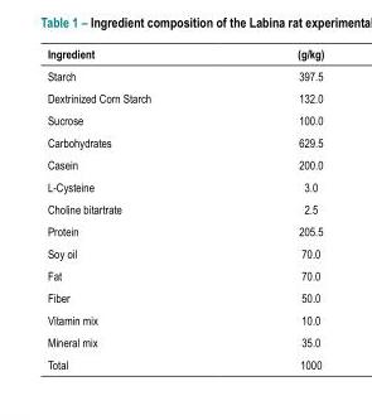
<table><thead><tr><td>Ingredient</td><td>(g/kg)</td></tr></thead><tbody><tr><td>Starch</td><td>397.5</td></tr><tr><td>Dextrinized Corn Starch</td><td>132.0</td></tr><tr><td>Sucrose</td><td>100.0</td></tr><tr><td>Carbohydrates</td><td>629.5</td></tr><tr><td>Casein</td><td>200.0</td></tr><tr><td>L-Cysteine</td><td>3.0</td></tr><tr><td>Choline bitartrate</td><td>2.5</td></tr><tr><td>Protein</td><td>205.5</td></tr><tr><td>Soy oil</td><td>70.0</td></tr><tr><td>Fat</td><td>70.0</td></tr><tr><td>Fiber</td><td>50.0</td></tr><tr><td>Vitamin mix</td><td>10.0</td></tr><tr><td>Mineral mix</td><td>35.0</td></tr><tr><td>Total</td><td>1000</td></tr></tbody></table>